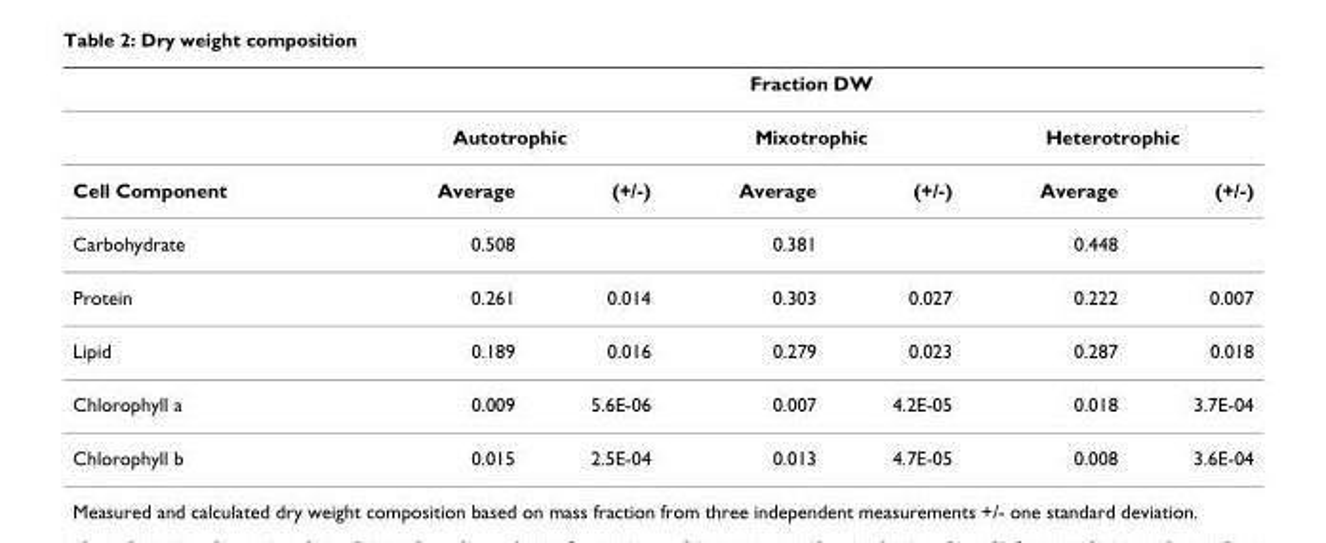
<table><thead><tr><td rowspan="3">Cell Component</td><td colspan="6">Fraction DW</td></tr><tr><td colspan="2">Autotrophic</td><td colspan="2">Mixotrophic</td><td colspan="2">Heterotrophic</td></tr><tr><td>Average</td><td>(+/-)</td><td>Average</td><td>(+/-)</td><td>Average</td><td>(+/-)</td></tr></thead><tbody><tr><td>Carbohydrate</td><td>0.508</td><td></td><td>0.381</td><td></td><td>0.448</td><td></td></tr><tr><td>Protein</td><td>0.261</td><td>0.014</td><td>0.303</td><td>0.027</td><td>0.222</td><td>0.007</td></tr><tr><td>Lipid</td><td>0.189</td><td>0.016</td><td>0.279</td><td>0.023</td><td>0.287</td><td>0.018</td></tr><tr><td>Chlorophyll a</td><td>0.009</td><td>5.6E-06</td><td>0.007</td><td>4.2E-05</td><td>0.018</td><td>3.7E-04</td></tr><tr><td>Chlorophyll b</td><td>0.015</td><td>2.5E-04</td><td>0.013</td><td>4.7E-05</td><td>0.008</td><td>3.6E-04</td></tr></tbody></table>